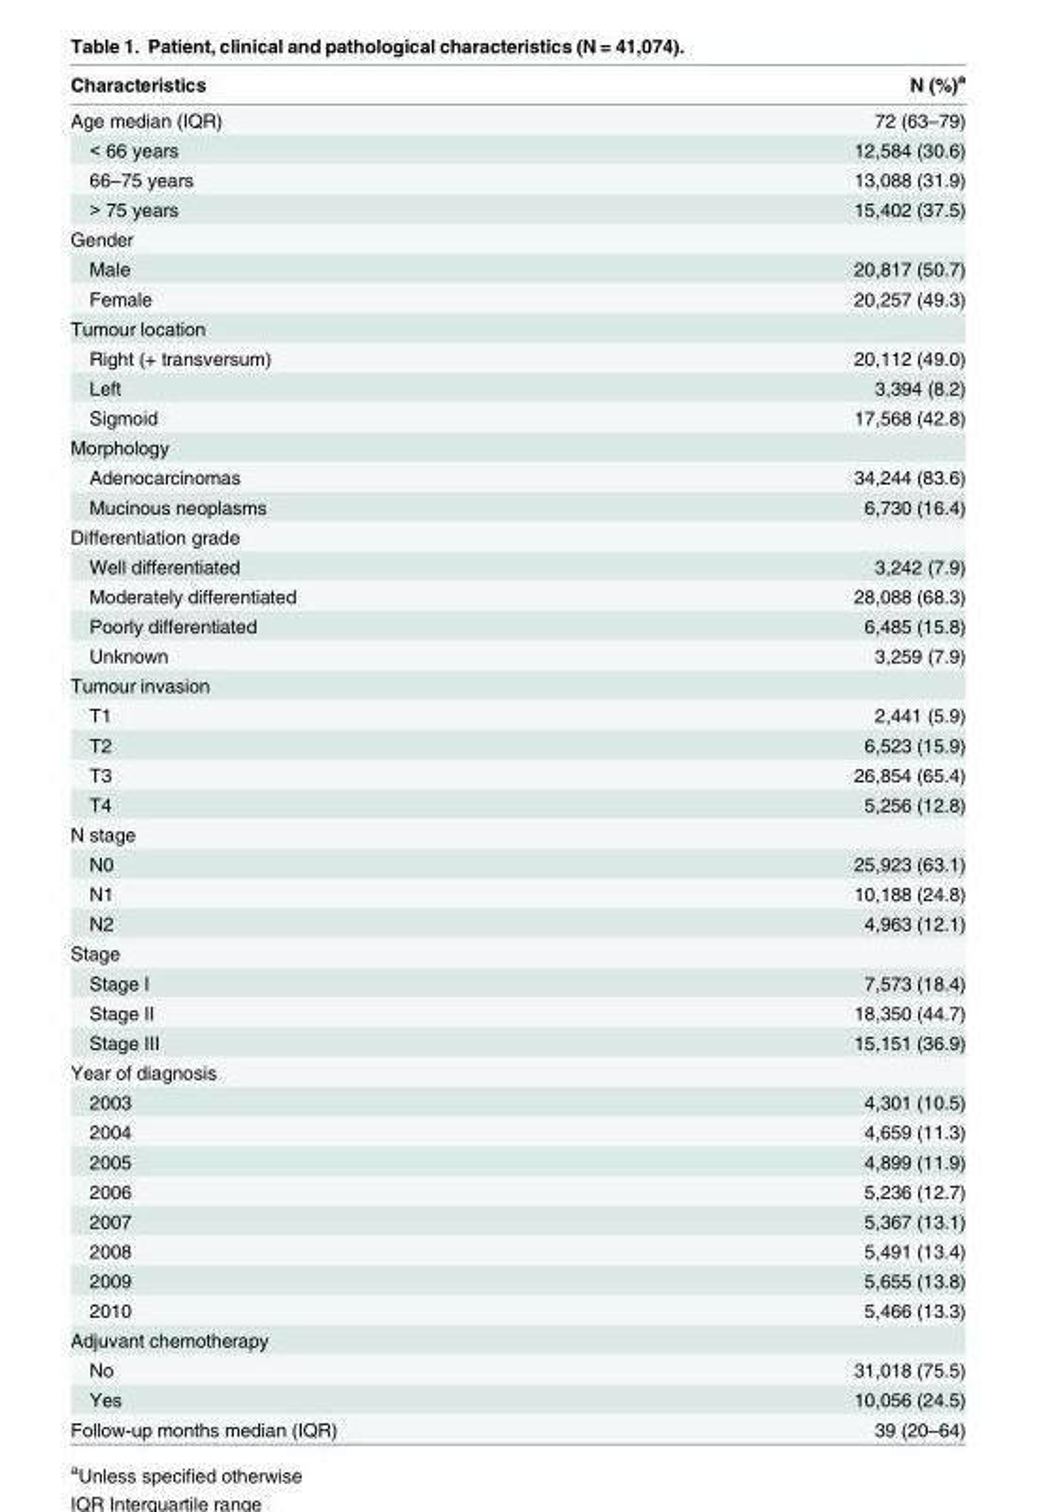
<table><thead><tr><td>Characteristics</td><td>N (%)<sup>a</sup></td></tr></thead><tbody><tr><td>Age median (IQR)</td><td>72 (63–79)</td></tr><tr><td>&lt; 66 years</td><td>12,584 (30.6)</td></tr><tr><td>66–75 years</td><td>13,088 (31.9)</td></tr><tr><td>&gt; 75 years</td><td>15,402 (37.5)</td></tr><tr><td colspan="2">Gender</td></tr><tr><td>Male</td><td>20,817 (50.7)</td></tr><tr><td>Female</td><td>20,257 (49.3)</td></tr><tr><td colspan="2">Tumour location</td></tr><tr><td>Right (+ transversum)</td><td>20,112 (49.0)</td></tr><tr><td>Left</td><td>3,394 (8.2)</td></tr><tr><td>Sigmoid</td><td>17,568 (42.8)</td></tr><tr><td colspan="2">Morphology</td></tr><tr><td>Adenocarcinomas</td><td>34,244 (83.6)</td></tr><tr><td>Mucinous neoplasms</td><td>6,730 (16.4)</td></tr><tr><td colspan="2">Differentiation grade</td></tr><tr><td>Well differentiated</td><td>3,242 (7.9)</td></tr><tr><td>Moderately differentiated</td><td>28,088 (68.3)</td></tr><tr><td>Poorly differentiated</td><td>6,485 (15.8)</td></tr><tr><td>Unknown</td><td>3,259 (7.9)</td></tr><tr><td colspan="2">Tumour invasion</td></tr><tr><td>T1</td><td>2,441 (5.9)</td></tr><tr><td>T2</td><td>6,523 (15.9)</td></tr><tr><td>T3</td><td>26,854 (65.4)</td></tr><tr><td>T4</td><td>5,256 (12.8)</td></tr><tr><td colspan="2">N stage</td></tr><tr><td>N0</td><td>25,923 (63.1)</td></tr><tr><td>N1</td><td>10,188 (24.8)</td></tr><tr><td>N2</td><td>4,963 (12.1)</td></tr><tr><td colspan="2">Stage</td></tr><tr><td>Stage I</td><td>7,573 (18.4)</td></tr><tr><td>Stage II</td><td>18,350 (44.7)</td></tr><tr><td>Stage III</td><td>15,151 (36.9)</td></tr><tr><td colspan="2">Year of diagnosis</td></tr><tr><td>2003</td><td>4,301 (10.5)</td></tr><tr><td>2004</td><td>4,659 (11.3)</td></tr><tr><td>2005</td><td>4,899 (11.9)</td></tr><tr><td>2006</td><td>5,236 (12.7)</td></tr><tr><td>2007</td><td>5,367 (13.1)</td></tr><tr><td>2008</td><td>5,491 (13.4)</td></tr><tr><td>2009</td><td>5,655 (13.8)</td></tr><tr><td>2010</td><td>5,466 (13.3)</td></tr><tr><td colspan="2">Adjuvant chemotherapy</td></tr><tr><td>No</td><td>31,018 (75.5)</td></tr><tr><td>Yes</td><td>10,056 (24.5)</td></tr><tr><td>Follow-up months median (IQR)</td><td>39 (20–64)</td></tr></tbody></table>